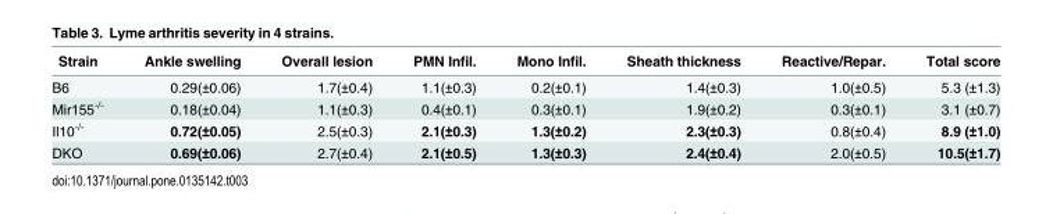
<table><thead><tr><td>Strain</td><td>Ankle swelling</td><td>Overall lesion</td><td>PMN Infil.</td><td>Mono Infil.</td><td>Sheath thickness</td><td>Reactive/Repar.</td><td>Total score</td></tr></thead><tbody><tr><td>B6</td><td>0.29(±0.06)</td><td>1.7(±0.4)</td><td>1.1(±0.3)</td><td>0.2(±0.1)</td><td>1.4(±0.3)</td><td>1.0(±0.5)</td><td>5.3 (±1.3)</td></tr><tr><td>Mir155<sup>-/-</sup></td><td>0.18(±0.04)</td><td>1.1(±0.3)</td><td>0.4(±0.1)</td><td>0.3(±0.1)</td><td>1.9(±0.2)</td><td>0.3(±0.1)</td><td>3.1 (±0.7)</td></tr><tr><td>Il10<sup>-/-</sup></td><td>0.72(±0.05)</td><td>2.5(±0.3)</td><td>2.1(±0.3)</td><td>1.3(±0.2)</td><td>2.3(±0.3)</td><td>0.8(±0.4)</td><td>8.9 (±1.0)</td></tr><tr><td>DKO</td><td>0.69(±0.06)</td><td>2.7(±0.4)</td><td>2.1(±0.5)</td><td>1.3(±0.3)</td><td>2.4(±0.4)</td><td>2.0(±0.5)</td><td>10.5(±1.7)</td></tr></tbody></table>